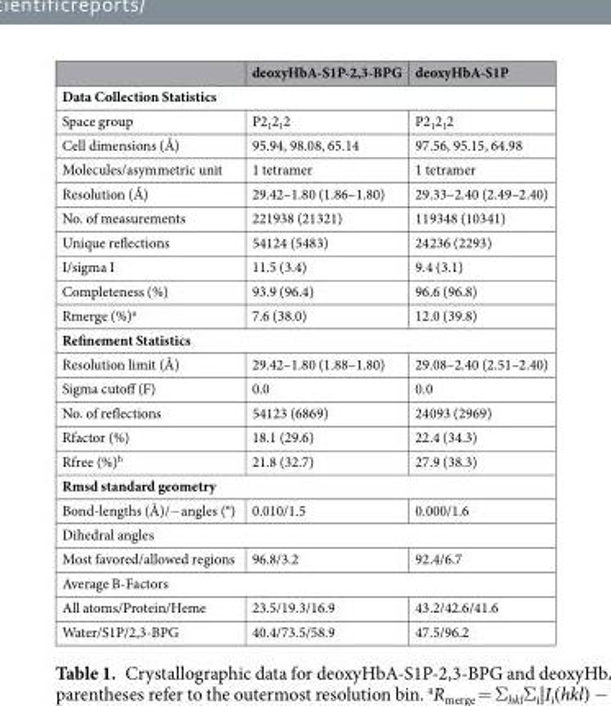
<table><thead><tr><td></td><td>deoxyHbA-S1P-2,3-BPG</td><td>deoxyHbA-S1P</td></tr></thead><tbody><tr><td colspan="3">Data Collection Statistics</td></tr><tr><td>Space group</td><td>P2<sub>1</sub>2<sub>1</sub>2</td><td>P2<sub>1</sub>2<sub>1</sub>2</td></tr><tr><td>Cell dimensions (Å)</td><td>95.94, 98.08, 65.14</td><td>97.56, 95.15, 64.98</td></tr><tr><td>Molecules/asymmetric unit</td><td>1 tetramer</td><td>1 tetramer</td></tr><tr><td>Resolution (Å)</td><td>29.42–1.80 (1.86–1.80)</td><td>29.33–2.40 (2.49–2.40)</td></tr><tr><td>No. of measurements</td><td>221938 (21321)</td><td>119348 (10341)</td></tr><tr><td>Unique reflections</td><td>54124 (5483)</td><td>24236 (2293)</td></tr><tr><td>I/sigma I</td><td>11.5 (3.4)</td><td>9.4 (3.1)</td></tr><tr><td>Completeness (%)</td><td>93.9 (96.4)</td><td>96.6 (96.8)</td></tr><tr><td>Rmerge (%)<sup>a</sup></td><td>7.6 (38.0)</td><td>12.0 (39.8)</td></tr><tr><td colspan="3">Refinement Statistics</td></tr><tr><td>Resolution limit (Å)</td><td>29.42–1.80 (1.88–1.80)</td><td>29.08–2.40 (2.51–2.40)</td></tr><tr><td>Sigma cutoff (F)</td><td>0.0</td><td>0.0</td></tr><tr><td>No. of reflections</td><td>54123 (6869)</td><td>24093 (2969)</td></tr><tr><td>Rfactor (%)</td><td>18.1 (29.6)</td><td>22.4 (34.3)</td></tr><tr><td>Rfree (%)<sup>b</sup></td><td>21.8 (32.7)</td><td>27.9 (38.3)</td></tr><tr><td colspan="3">Rmsd standard geometry</td></tr><tr><td>Bond-lengths (Å)/−angles (°)</td><td>0.010/1.5</td><td>0.000/1.6</td></tr><tr><td colspan="3">Dihedral angles</td></tr><tr><td>Most favored/allowed regions</td><td>96.8/3.2</td><td>92.4/6.7</td></tr><tr><td colspan="3">Average B-Factors</td></tr><tr><td>All atoms/Protein/Heme</td><td>23.5/19.3/16.9</td><td>43.2/42.6/41.6</td></tr><tr><td>Water/S1P/2,3-BPG</td><td>40.4/73.5/58.9</td><td>47.5/96.2</td></tr></tbody></table>